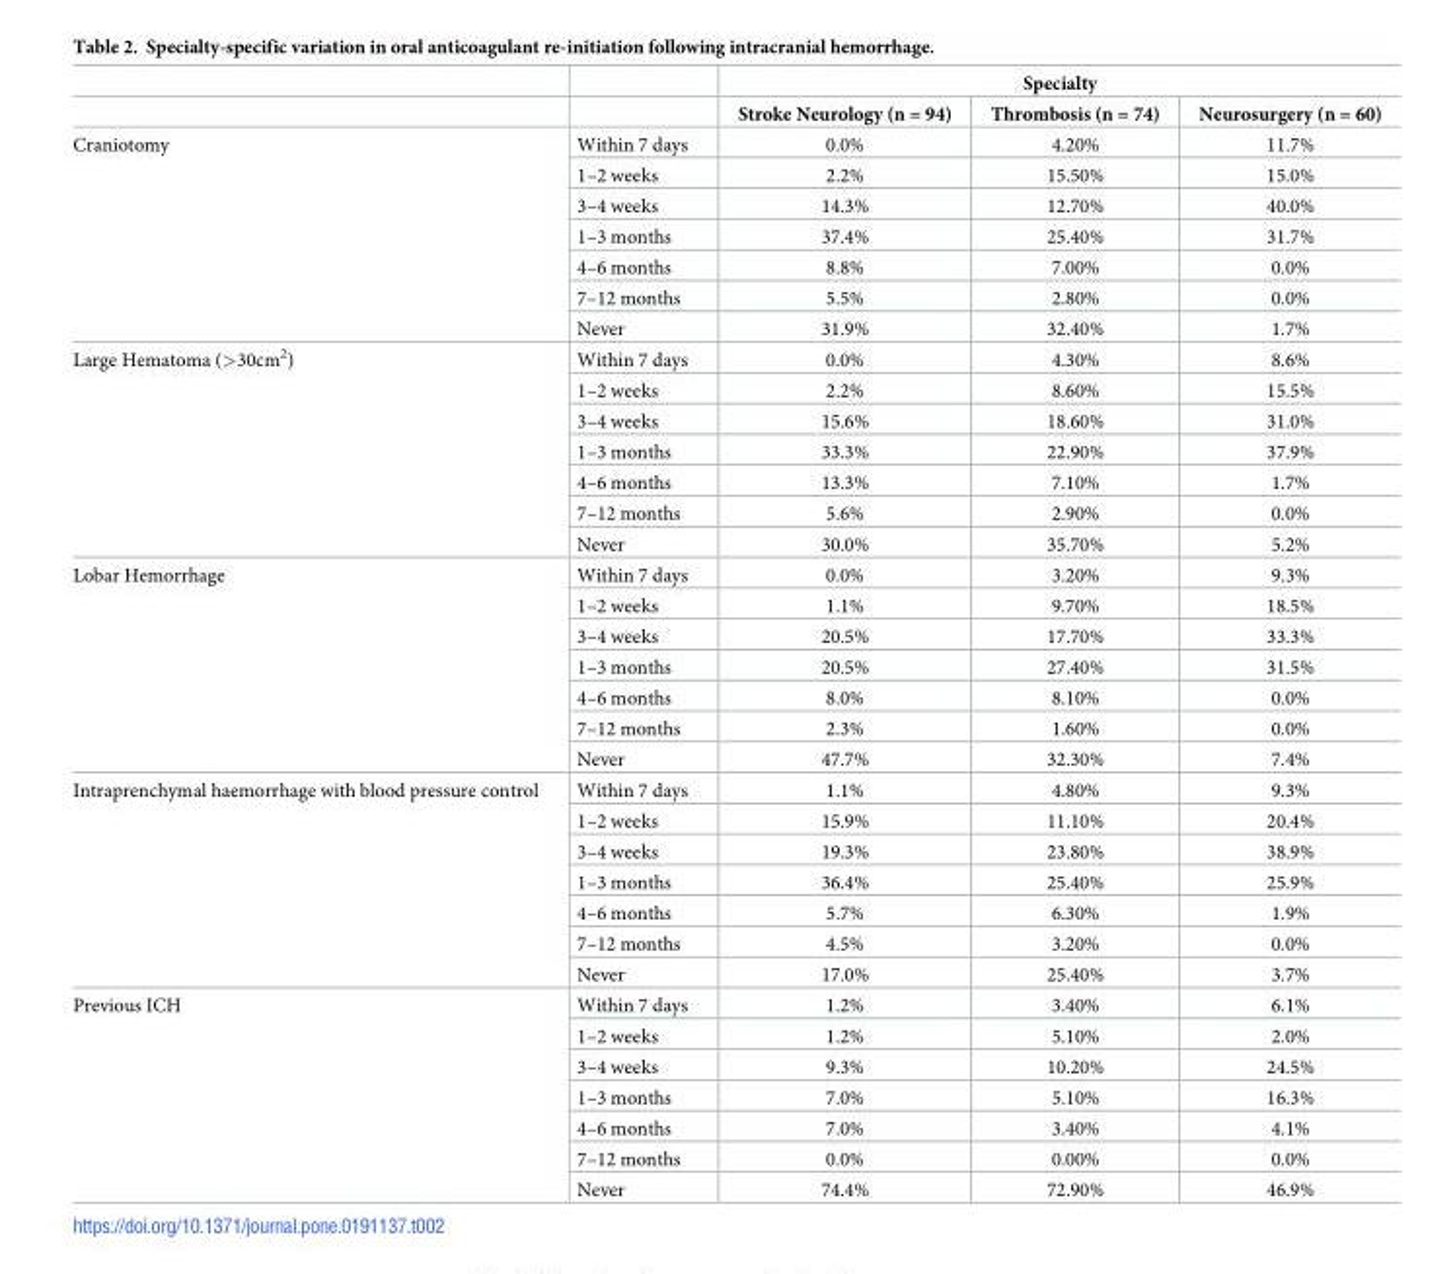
<table><thead><tr><td rowspan="2"></td><td rowspan="2"></td><td colspan="3">Specialty</td></tr><tr><td>Stroke Neurology (n = 94)</td><td>Thrombosis (n = 74)</td><td>Neurosurgery (n = 60)</td></tr></thead><tbody><tr><td rowspan="7">Craniotomy</td><td>Within 7 days</td><td>0.0%</td><td>4.20%</td><td>11.7%</td></tr><tr><td>1–2 weeks</td><td>2.2%</td><td>15.50%</td><td>15.0%</td></tr><tr><td>3–4 weeks</td><td>14.3%</td><td>12.70%</td><td>40.0%</td></tr><tr><td>1–3 months</td><td>37.4%</td><td>25.40%</td><td>31.7%</td></tr><tr><td>4–6 months</td><td>8.8%</td><td>7.00%</td><td>0.0%</td></tr><tr><td>7–12 months</td><td>5.5%</td><td>2.80%</td><td>0.0%</td></tr><tr><td>Never</td><td>31.9%</td><td>32.40%</td><td>1.7%</td></tr><tr><td rowspan="7">Large Hematoma (&gt;30cm<sup>2</sup>)</td><td>Within 7 days</td><td>0.0%</td><td>4.30%</td><td>8.6%</td></tr><tr><td>1–2 weeks</td><td>2.2%</td><td>8.60%</td><td>15.5%</td></tr><tr><td>3–4 weeks</td><td>15.6%</td><td>18.60%</td><td>31.0%</td></tr><tr><td>1–3 months</td><td>33.3%</td><td>22.90%</td><td>37.9%</td></tr><tr><td>4–6 months</td><td>13.3%</td><td>7.10%</td><td>1.7%</td></tr><tr><td>7–12 months</td><td>5.6%</td><td>2.90%</td><td>0.0%</td></tr><tr><td>Never</td><td>30.0%</td><td>35.70%</td><td>5.2%</td></tr><tr><td rowspan="7">Lobar Hemorrhage</td><td>Within 7 days</td><td>0.0%</td><td>3.20%</td><td>9.3%</td></tr><tr><td>1–2 weeks</td><td>1.1%</td><td>9.70%</td><td>18.5%</td></tr><tr><td>3–4 weeks</td><td>20.5%</td><td>17.70%</td><td>33.3%</td></tr><tr><td>1–3 months</td><td>20.5%</td><td>27.40%</td><td>31.5%</td></tr><tr><td>4–6 months</td><td>8.0%</td><td>8.10%</td><td>0.0%</td></tr><tr><td>7–12 months</td><td>2.3%</td><td>1.60%</td><td>0.0%</td></tr><tr><td>Never</td><td>47.7%</td><td>32.30%</td><td>7.4%</td></tr><tr><td rowspan="7">Intraprenchymal haemorrhage with blood pressure control</td><td>Within 7 days</td><td>1.1%</td><td>4.80%</td><td>9.3%</td></tr><tr><td>1–2 weeks</td><td>15.9%</td><td>11.10%</td><td>20.4%</td></tr><tr><td>3–4 weeks</td><td>19.3%</td><td>23.80%</td><td>38.9%</td></tr><tr><td>1–3 months</td><td>36.4%</td><td>25.40%</td><td>25.9%</td></tr><tr><td>4–6 months</td><td>5.7%</td><td>6.30%</td><td>1.9%</td></tr><tr><td>7–12 months</td><td>4.5%</td><td>3.20%</td><td>0.0%</td></tr><tr><td>Never</td><td>17.0%</td><td>25.40%</td><td>3.7%</td></tr><tr><td rowspan="7">Previous ICH</td><td>Within 7 days</td><td>1.2%</td><td>3.40%</td><td>6.1%</td></tr><tr><td>1–2 weeks</td><td>1.2%</td><td>5.10%</td><td>2.0%</td></tr><tr><td>3–4 weeks</td><td>9.3%</td><td>10.20%</td><td>24.5%</td></tr><tr><td>1–3 months</td><td>7.0%</td><td>5.10%</td><td>16.3%</td></tr><tr><td>4–6 months</td><td>7.0%</td><td>3.40%</td><td>4.1%</td></tr><tr><td>7–12 months</td><td>0.0%</td><td>0.00%</td><td>0.0%</td></tr><tr><td>Never</td><td>74.4%</td><td>72.90%</td><td>46.9%</td></tr></tbody></table>